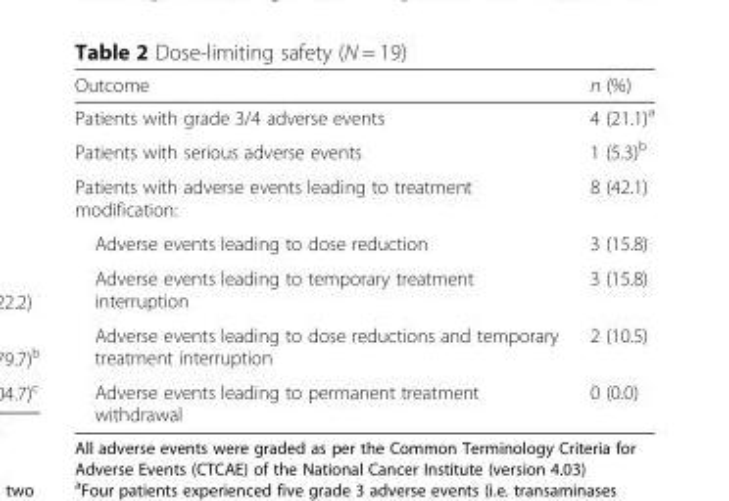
<table><thead><tr><td>Outcome</td><td>n (%)</td></tr></thead><tbody><tr><td>Patients with grade 3/4 adverse events</td><td>4 (21.1)<sup>a</sup></td></tr><tr><td>Patients with serious adverse events</td><td>1 (5.3)<sup>b</sup></td></tr><tr><td>Patients with adverse events leading to treatment modification:</td><td>8 (42.1)</td></tr><tr><td>Adverse events leading to dose reduction</td><td>3 (15.8)</td></tr><tr><td>Adverse events leading to temporary treatment interruption</td><td>3 (15.8)</td></tr><tr><td>Adverse events leading to dose reductions and temporary treatment interruption</td><td>2 (10.5)</td></tr><tr><td>Adverse events leading to permanent treatment withdrawal</td><td>0 (0.0)</td></tr></tbody></table>